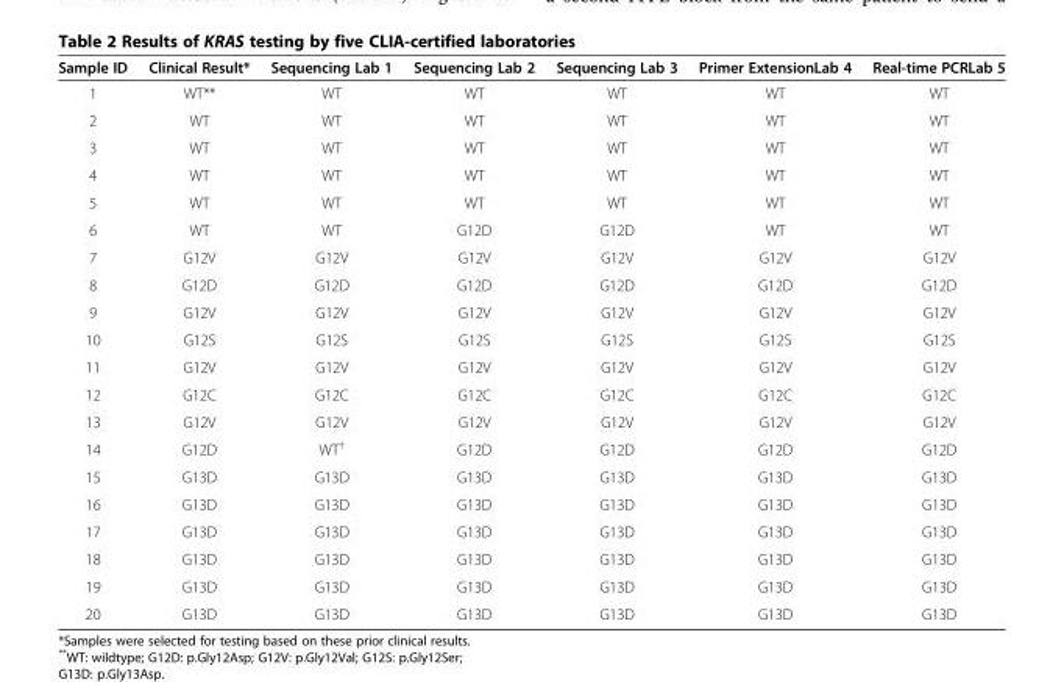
<table><thead><tr><td>Sample ID</td><td>Clinical Result*</td><td>Sequencing Lab 1</td><td>Sequencing Lab 2</td><td>Sequencing Lab 3</td><td>Primer ExtensionLab 4</td><td>Real-time PCRLab 5</td></tr></thead><tbody><tr><td>1</td><td>WT**</td><td>WT</td><td>WT</td><td>WT</td><td>WT</td><td>WT</td></tr><tr><td>2</td><td>WT</td><td>WT</td><td>WT</td><td>WT</td><td>WT</td><td>WT</td></tr><tr><td>3</td><td>WT</td><td>WT</td><td>WT</td><td>WT</td><td>WT</td><td>WT</td></tr><tr><td>4</td><td>WT</td><td>WT</td><td>WT</td><td>WT</td><td>WT</td><td>WT</td></tr><tr><td>5</td><td>WT</td><td>WT</td><td>WT</td><td>WT</td><td>WT</td><td>WT</td></tr><tr><td>6</td><td>WT</td><td>WT</td><td>G12D</td><td>G12D</td><td>WT</td><td>WT</td></tr><tr><td>7</td><td>G12V</td><td>G12V</td><td>G12V</td><td>G12V</td><td>G12V</td><td>G12V</td></tr><tr><td>8</td><td>G12D</td><td>G12D</td><td>G12D</td><td>G12D</td><td>G12D</td><td>G12D</td></tr><tr><td>9</td><td>G12V</td><td>G12V</td><td>G12V</td><td>G12V</td><td>G12V</td><td>G12V</td></tr><tr><td>10</td><td>G12S</td><td>G12S</td><td>G12S</td><td>G12S</td><td>G12S</td><td>G12S</td></tr><tr><td>11</td><td>G12V</td><td>G12V</td><td>G12V</td><td>G12V</td><td>G12V</td><td>G12V</td></tr><tr><td>12</td><td>G12C</td><td>G12C</td><td>G12C</td><td>G12C</td><td>G12C</td><td>G12C</td></tr><tr><td>13</td><td>G12V</td><td>G12V</td><td>G12V</td><td>G12V</td><td>G12V</td><td>G12V</td></tr><tr><td>14</td><td>G12D</td><td>WT<sup>†</sup></td><td>G12D</td><td>G12D</td><td>G12D</td><td>G12D</td></tr><tr><td>15</td><td>G13D</td><td>G13D</td><td>G13D</td><td>G13D</td><td>G13D</td><td>G13D</td></tr><tr><td>16</td><td>G13D</td><td>G13D</td><td>G13D</td><td>G13D</td><td>G13D</td><td>G13D</td></tr><tr><td>17</td><td>G13D</td><td>G13D</td><td>G13D</td><td>G13D</td><td>G13D</td><td>G13D</td></tr><tr><td>18</td><td>G13D</td><td>G13D</td><td>G13D</td><td>G13D</td><td>G13D</td><td>G13D</td></tr><tr><td>19</td><td>G13D</td><td>G13D</td><td>G13D</td><td>G13D</td><td>G13D</td><td>G13D</td></tr><tr><td>20</td><td>G13D</td><td>G13D</td><td>G13D</td><td>G13D</td><td>G13D</td><td>G13D</td></tr></tbody></table>